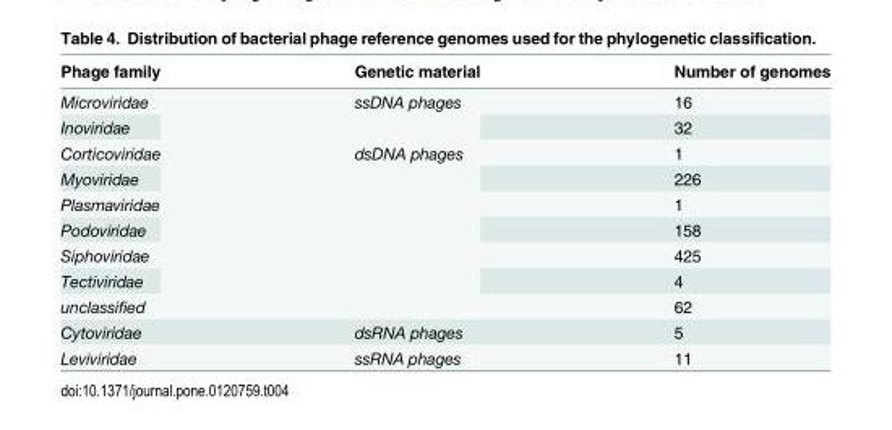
<table><thead><tr><td>Phage family</td><td>Genetic material</td><td>Number of genomes</td></tr></thead><tbody><tr><td>Microviridae</td><td rowspan="2">ssDNA phages</td><td>16</td></tr><tr><td>Inoviridae</td><td>32</td></tr><tr><td>Corticoviridae</td><td rowspan="7">dsDNA phages</td><td>1</td></tr><tr><td>Myoviridae</td><td>226</td></tr><tr><td>Plasmaviridae</td><td>1</td></tr><tr><td>Podoviridae</td><td>158</td></tr><tr><td>Siphoviridae</td><td>425</td></tr><tr><td>Tectiviridae</td><td>4</td></tr><tr><td>unclassified</td><td>62</td></tr><tr><td>Cytoviridae</td><td>dsRNA phages</td><td>5</td></tr><tr><td>Leviviridae</td><td>ssRNA phages</td><td>11</td></tr></tbody></table>